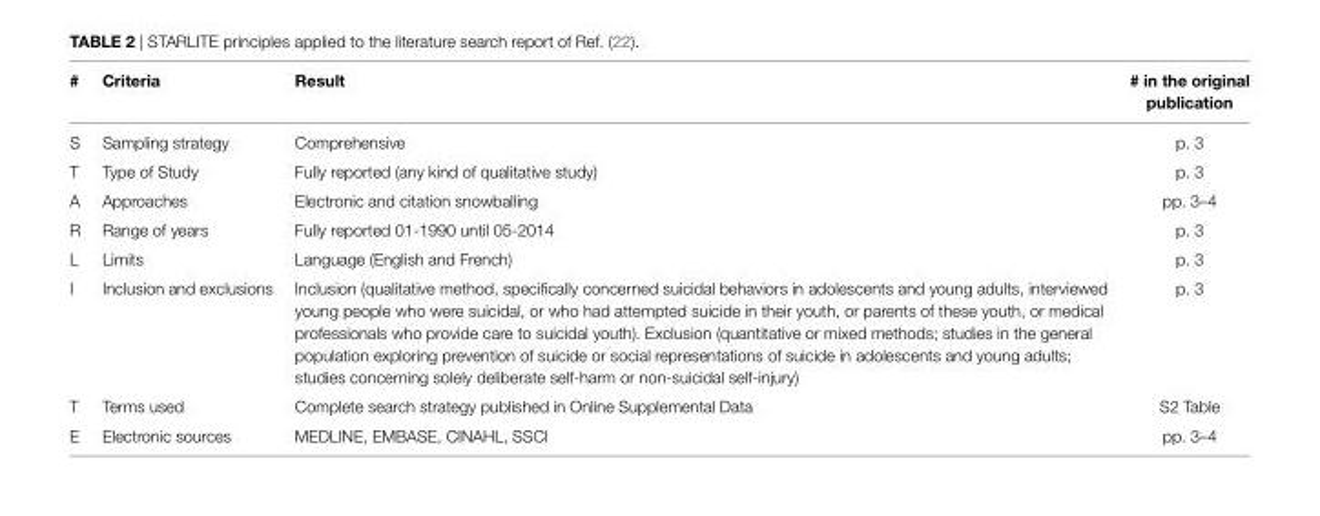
<table><thead><tr><td>#</td><td>Criteria</td><td>Result</td><td># in the original publication</td></tr></thead><tbody><tr><td>S</td><td>Sampling strategy</td><td>Comprehensive</td><td>p. 3</td></tr><tr><td>T</td><td>Type of Study</td><td>Fully reported (any kind of qualitative study)</td><td>p. 3</td></tr><tr><td>A</td><td>Approaches</td><td>Electronic and citation snowballing</td><td>pp. 3–4</td></tr><tr><td>R</td><td>Range of years</td><td>Fully reported 01-1990 until 05-2014</td><td>p. 3</td></tr><tr><td>L</td><td>Limits</td><td>Language (English and French)</td><td>p. 3</td></tr><tr><td>I</td><td>Inclusion and exclusions</td><td>Inclusion (qualitative method, specifically concerned suicidal behaviors in adolescents and young adults, interviewed young people who were suicidal, or who had attempted suicide in their youth, or parents of these youth, or medical professionals who provide care to suicidal youth). Exclusion (quantitative or mixed methods; studies in the general population exploring prevention of suicide or social representations of suicide in adolescents and young adults; studies concerning solely deliberate self-harm or non-suicidal self-injury)</td><td>p. 3</td></tr><tr><td>T</td><td>Terms used</td><td>Complete search strategy published in Online Supplemental Data</td><td>S2 Table</td></tr><tr><td>E</td><td>Electronic sources</td><td>MEDLINE, EMBASE, CINAHL, SSCI</td><td>pp. 3–4</td></tr></tbody></table>